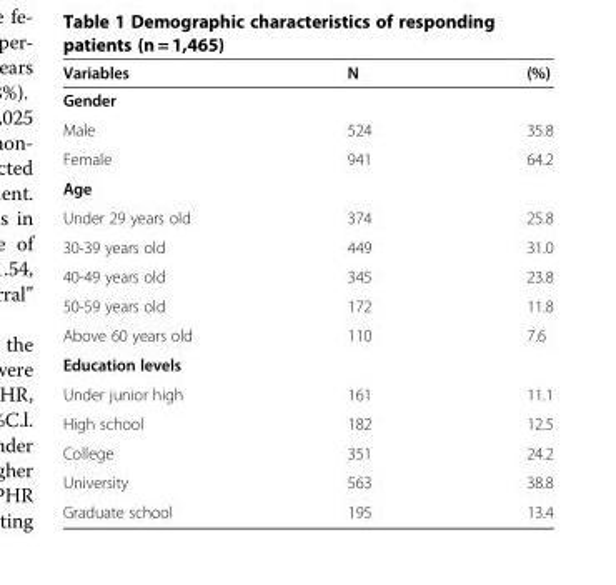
<table><thead><tr><td>Variables</td><td>N</td><td>(%)</td></tr></thead><tbody><tr><td colspan="3">Gender</td></tr><tr><td>Male</td><td>524</td><td>35.8</td></tr><tr><td>Female</td><td>941</td><td>64.2</td></tr><tr><td colspan="3">Age</td></tr><tr><td>Under 29 years old</td><td>374</td><td>25.8</td></tr><tr><td>30-39 years old</td><td>449</td><td>31.0</td></tr><tr><td>40-49 years old</td><td>345</td><td>23.8</td></tr><tr><td>50-59 years old</td><td>172</td><td>11.8</td></tr><tr><td>Above 60 years old</td><td>110</td><td>7.6</td></tr><tr><td colspan="3">Education levels</td></tr><tr><td>Under junior high</td><td>161</td><td>11.1</td></tr><tr><td>High school</td><td>182</td><td>12.5</td></tr><tr><td>College</td><td>351</td><td>24.2</td></tr><tr><td>University</td><td>563</td><td>38.8</td></tr><tr><td>Graduate school</td><td>195</td><td>13.4</td></tr></tbody></table>